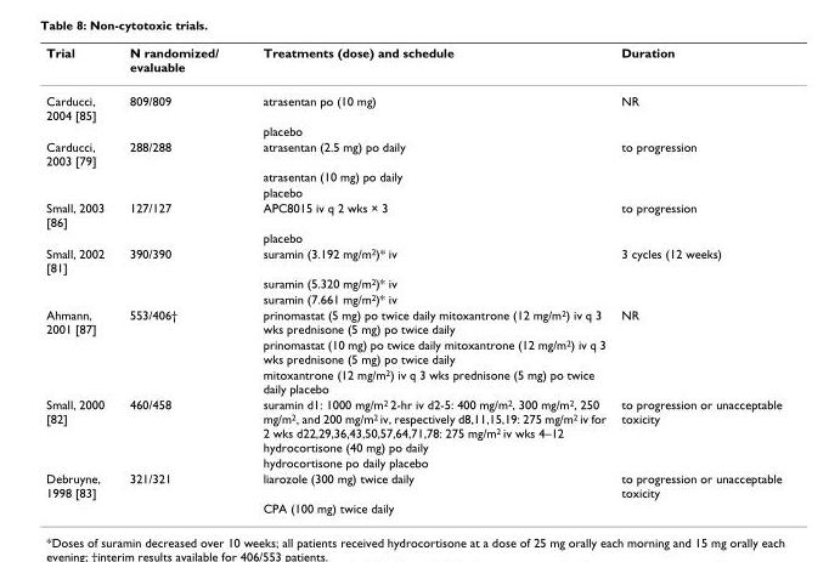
<table><thead><tr><td>Trial</td><td>N randomized/ evaluable</td><td>Treatments (dose) and schedule</td><td>Duration</td></tr></thead><tbody><tr><td rowspan="2">Carducci, 2004 [85]</td><td>809/809</td><td>atrasentan po (10 mg)</td><td>NR</td></tr><tr><td></td><td>placebo</td><td></td></tr><tr><td rowspan="3">Carducci, 2003 [79]</td><td>288/288</td><td>atrasentan (2.5 mg) po daily</td><td>to progression</td></tr><tr><td></td><td>atrasentan (10 mg) po daily</td><td></td></tr><tr><td></td><td>placebo</td><td></td></tr><tr><td rowspan="2">Small, 2003 [86]</td><td>127/127</td><td>APC8015 iv q 2 wks × 3</td><td>to progression</td></tr><tr><td></td><td>placebo</td><td></td></tr><tr><td rowspan="3">Small, 2002 [81]</td><td>390/390</td><td>suramin (3.192 mg/m2)* iv</td><td>3 cycles (12 weeks)</td></tr><tr><td></td><td>suramin (5.320 mg/m2)* iv</td><td></td></tr><tr><td></td><td>suramin (7.661 mg/m2)* iv</td><td></td></tr><tr><td rowspan="3">Ahmann, 2001 [87]</td><td>553/406†</td><td>prinomastat (5 mg) po twice daily mitoxantrone (12 mg/m2) iv q 3 wks prednisone (5 mg) po twice daily</td><td>NR</td></tr><tr><td></td><td>prinomastat (10 mg) po twice daily mitoxantrone (12 mg/m2) iv q 3 wks prednisone (5 mg) po twice daily</td><td></td></tr><tr><td></td><td>mitoxantrone (12 mg/m2) iv q 3 wks prednisone (5 mg) po twice daily placebo</td><td></td></tr><tr><td rowspan="2">Small, 2000 [82]</td><td>460/458</td><td>suramin d1: 1000 mg/m2 2-hr iv d2-5: 400 mg/m2, 300 mg/m2, 250 mg/m2, and 200 mg/m2 iv, respectively d8,11,15,19: 275 mg/m2 iv for 2 wks d22,29,36,43,50,57,64,71,78: 275 mg/m2 iv wks 4–12 hydrocortisone (40 mg) po daily</td><td>to progression or unacceptable toxicity</td></tr><tr><td></td><td>hydrocortisone po daily placebo</td><td></td></tr><tr><td rowspan="2">Debruyne, 1998 [83]</td><td>321/321</td><td>liarozole (300 mg) twice daily</td><td>to progression or unacceptable toxicity</td></tr><tr><td></td><td>CPA (100 mg) twice daily</td><td></td></tr></tbody></table>